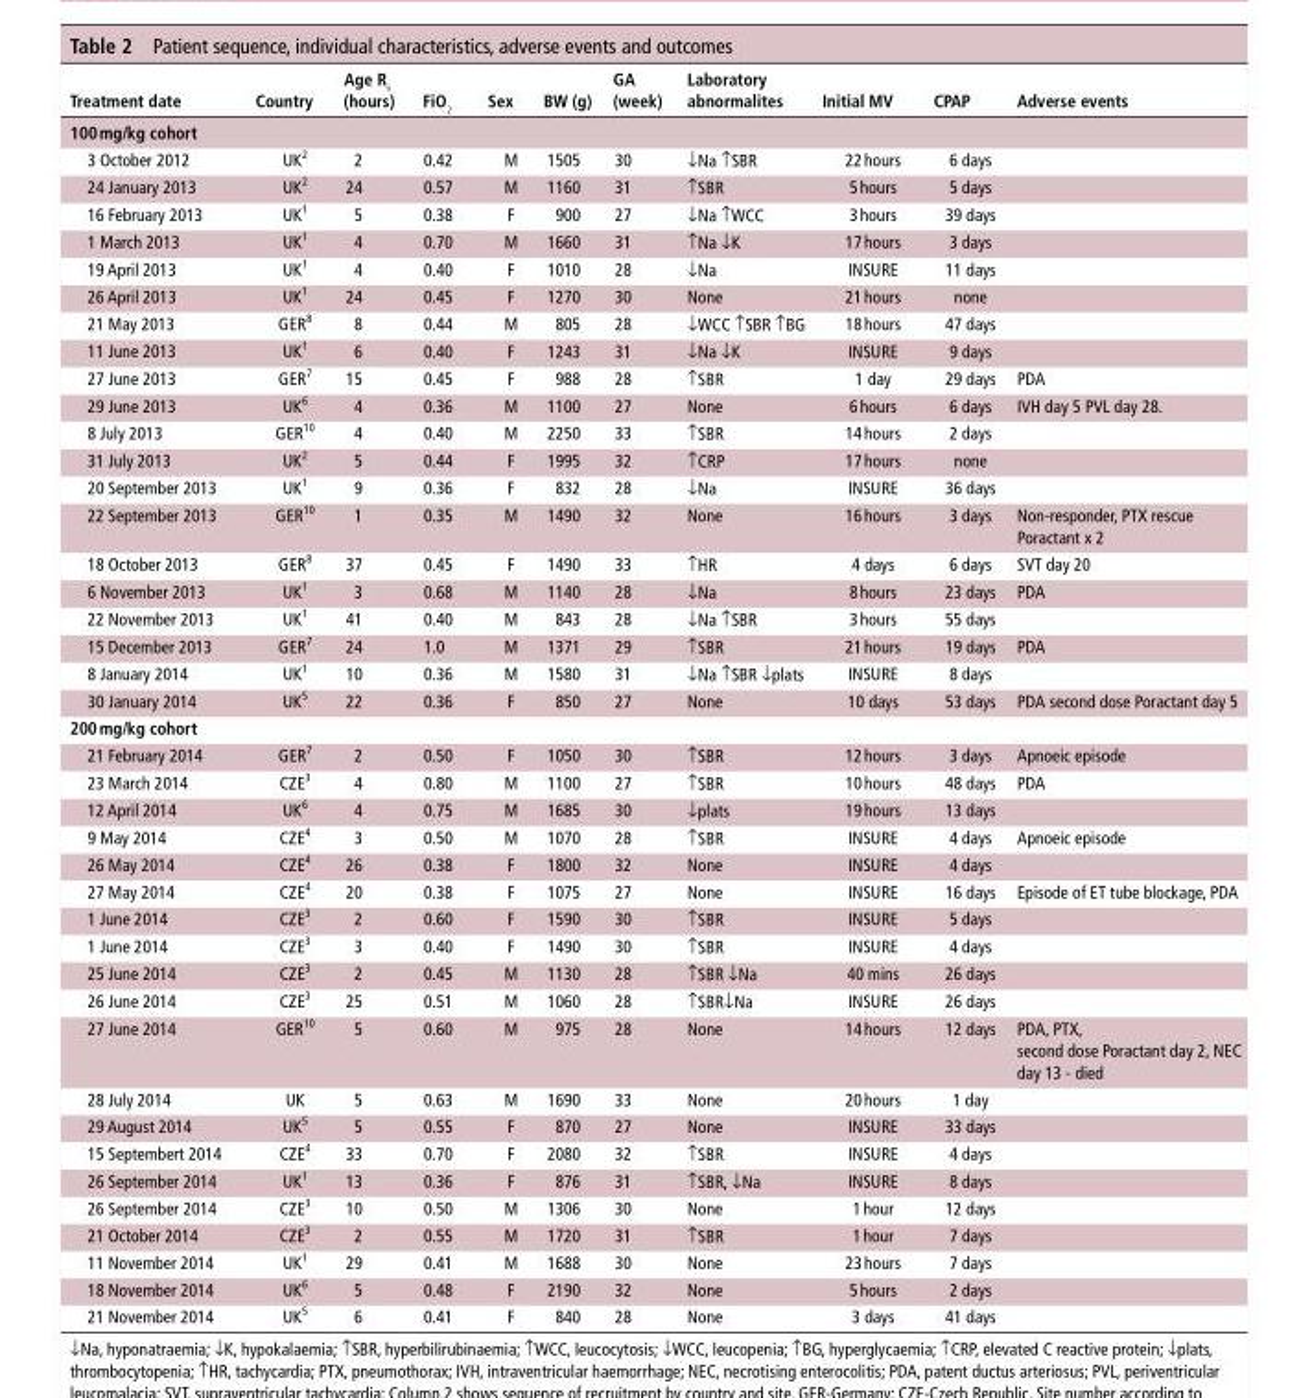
<table><thead><tr><td>Treatment date</td><td>Country</td><td>Age R<sub>x</sub> (hours)</td><td>FiO<sub>2</sub></td><td>Sex</td><td>BW (g)</td><td>GA (week)</td><td>laboratory abnormalites</td><td>Initial MV</td><td>CPAP</td><td>Adverse events</td></tr></thead><tbody><tr><td colspan="11">100 mg/kg cohort</td></tr><tr><td>3 October 2012</td><td>UK<sup>2</sup></td><td>2</td><td>0.42</td><td>M</td><td>1505</td><td>30</td><td>↓Na ↑SBR</td><td>22 hours</td><td>6 days</td><td></td></tr><tr><td>24 January 2013</td><td>UK<sup>2</sup></td><td>24</td><td>0.57</td><td>M</td><td>1160</td><td>31</td><td>↑SBR</td><td>5 hours</td><td>5 days</td><td></td></tr><tr><td>16 February 2013</td><td>UK<sup>1</sup></td><td>5</td><td>0.38</td><td>F</td><td>900</td><td>27</td><td>↓Na ↑WCC</td><td>3 hours</td><td>39 days</td><td></td></tr><tr><td>1 March 2013</td><td>UK<sup>1</sup></td><td>4</td><td>0.70</td><td>M</td><td>1660</td><td>31</td><td>↑Na ↓K</td><td>17 hours</td><td>3 days</td><td></td></tr><tr><td>19 April 2013</td><td>UK<sup>1</sup></td><td>4</td><td>0.40</td><td>F</td><td>1010</td><td>28</td><td>↓Na</td><td>INSURE</td><td>11 days</td><td></td></tr><tr><td>26 April 2013</td><td>UK<sup>1</sup></td><td>24</td><td>0.45</td><td>F</td><td>1270</td><td>30</td><td>None</td><td>21 hours</td><td>none</td><td></td></tr><tr><td>21 May 2013</td><td>GER<sup>8</sup></td><td>8</td><td>0.44</td><td>M</td><td>805</td><td>28</td><td>↓WCC ↑SBR ↑BG</td><td>18 hours</td><td>47 days</td><td></td></tr><tr><td>11 June 2013</td><td>UK<sup>1</sup></td><td>6</td><td>0.40</td><td>F</td><td>1243</td><td>31</td><td>↓Na ↓K</td><td>INSURE</td><td>9 days</td><td></td></tr><tr><td>27 June 2013</td><td>GER<sup>7</sup></td><td>15</td><td>0.45</td><td>F</td><td>988</td><td>28</td><td>↑SBR</td><td>1 day</td><td>29 days</td><td>PDA</td></tr><tr><td>29 June 2013</td><td>UK<sup>6</sup></td><td>4</td><td>0.36</td><td>M</td><td>1100</td><td>27</td><td>None</td><td>6 hours</td><td>6 days</td><td>IVH day 5 PVL day 28.</td></tr><tr><td>8 July 2013</td><td>GER<sup>10</sup></td><td>4</td><td>0.40</td><td>M</td><td>2250</td><td>33</td><td>↑SBR</td><td>14 hours</td><td>2 days</td><td></td></tr><tr><td>31 July 2013</td><td>UK<sup>2</sup></td><td>5</td><td>0.44</td><td>F</td><td>1995</td><td>32</td><td>↑CRP</td><td>17 hours</td><td>none</td><td></td></tr><tr><td>20 September 2013</td><td>UK<sup>1</sup></td><td>9</td><td>0.36</td><td>F</td><td>832</td><td>28</td><td>↓Na</td><td>INSURE</td><td>36 days</td><td></td></tr><tr><td>22 September 2013</td><td>GER<sup>10</sup></td><td>1</td><td>0.35</td><td>M</td><td>1490</td><td>32</td><td>None</td><td>16 hours</td><td>3 days</td><td>Non-responder, PTX rescue Poractant x 2</td></tr><tr><td>18 October 2013</td><td>GER<sup>8</sup></td><td>37</td><td>0.45</td><td>F</td><td>1490</td><td>33</td><td>↑HR</td><td>4 days</td><td>6 days</td><td>SVT day 20</td></tr><tr><td>6 November 2013</td><td>UK<sup>1</sup></td><td>3</td><td>0.68</td><td>M</td><td>1140</td><td>28</td><td>↓Na</td><td>8 hours</td><td>23 days</td><td>PDA</td></tr><tr><td>22 November 2013</td><td>UK<sup>1</sup></td><td>41</td><td>0.40</td><td>M</td><td>843</td><td>28</td><td>↓Na ↑SBR</td><td>3 hours</td><td>55 days</td><td></td></tr><tr><td>15 December 2013</td><td>GER<sup>7</sup></td><td>24</td><td>1.0</td><td>M</td><td>1371</td><td>29</td><td>↑SBR</td><td>21 hours</td><td>19 days</td><td>PDA</td></tr><tr><td>8 January 2014</td><td>UK<sup>1</sup></td><td>10</td><td>0.36</td><td>M</td><td>1580</td><td>31</td><td>↓Na ↑SBR ↓plats</td><td>INSURE</td><td>8 days</td><td></td></tr><tr><td>30 January 2014</td><td>UK<sup>5</sup></td><td>22</td><td>0.36</td><td>F</td><td>850</td><td>27</td><td>None</td><td>10 days</td><td>53 days</td><td>PDA second dose Poractant day 5</td></tr><tr><td colspan="11">200 mg/kg cohort</td></tr><tr><td>21 February 2014</td><td>GER<sup>7</sup></td><td>2</td><td>0.50</td><td>F</td><td>1050</td><td>30</td><td>↑SBR</td><td>12 hours</td><td>3 days</td><td>Apnoeic episode</td></tr><tr><td>23 March 2014</td><td>CZE<sup>3</sup></td><td>4</td><td>0.80</td><td>M</td><td>1100</td><td>27</td><td>↑SBR</td><td>10 hours</td><td>48 days</td><td>PDA</td></tr><tr><td>12 April 2014</td><td>UK<sup>6</sup></td><td>4</td><td>0.75</td><td>M</td><td>1685</td><td>30</td><td>↓plats</td><td>19 hours</td><td>13 days</td><td></td></tr><tr><td>9 May 2014</td><td>CZE<sup>4</sup></td><td>3</td><td>0.50</td><td>M</td><td>1070</td><td>28</td><td>↑SBR</td><td>INSURE</td><td>4 days</td><td>Apnoeic episode</td></tr><tr><td>26 May 2014</td><td>CZE<sup>4</sup></td><td>26</td><td>0.38</td><td>F</td><td>1800</td><td>32</td><td>None</td><td>INSURE</td><td>4 days</td><td></td></tr><tr><td>27 May 2014</td><td>CZE<sup>4</sup></td><td>20</td><td>0.38</td><td>F</td><td>1075</td><td>27</td><td>None</td><td>INSURE</td><td>16 days</td><td>Episode of ET tube blockage, PDA</td></tr><tr><td>1 June 2014</td><td>CZE<sup>3</sup></td><td>2</td><td>0.60</td><td>F</td><td>1590</td><td>30</td><td>↑SBR</td><td>INSURE</td><td>5 days</td><td></td></tr><tr><td>1 June 2014</td><td>CZE<sup>3</sup></td><td>3</td><td>0.40</td><td>F</td><td>1490</td><td>30</td><td>↑SBR</td><td>INSURE</td><td>4 days</td><td></td></tr><tr><td>25 June 2014</td><td>CZE<sup>3</sup></td><td>2</td><td>0.45</td><td>M</td><td>1130</td><td>28</td><td>↑SBR ↓Na</td><td>40 mins</td><td>26 days</td><td></td></tr><tr><td>26 June 2014</td><td>CZE<sup>3</sup></td><td>25</td><td>0.51</td><td>M</td><td>1060</td><td>28</td><td>↑SBR↓Na</td><td>INSURE</td><td>26 days</td><td></td></tr><tr><td>27 June 2014</td><td>GER<sup>10</sup></td><td>5</td><td>0.60</td><td>M</td><td>975</td><td>28</td><td>None</td><td>14 hours</td><td>12 days</td><td>PDA, PTX, second dose Poractant day 2, NEC day 13 - died</td></tr><tr><td>28 July 2014</td><td>UK</td><td>5</td><td>0.63</td><td>M</td><td>1690</td><td>33</td><td>None</td><td>20 hours</td><td>1 day</td><td></td></tr><tr><td>29 August 2014</td><td>UK<sup>5</sup></td><td>5</td><td>0.55</td><td>F</td><td>870</td><td>27</td><td>None</td><td>INSURE</td><td>33 days</td><td></td></tr><tr><td>15 Septembert 2014</td><td>CZE<sup>4</sup></td><td>33</td><td>0.70</td><td>F</td><td>2080</td><td>32</td><td>↑SBR</td><td>INSURE</td><td>4 days</td><td></td></tr><tr><td>26 September 2014</td><td>UK<sup>1</sup></td><td>13</td><td>0.36</td><td>F</td><td>876</td><td>31</td><td>↑SBR, ↓Na</td><td>INSURE</td><td>8 days</td><td></td></tr><tr><td>26 September 2014</td><td>CZE<sup>3</sup></td><td>10</td><td>0.50</td><td>M</td><td>1306</td><td>30</td><td>None</td><td>1 hour</td><td>12 days</td><td></td></tr><tr><td>21 October 2014</td><td>CZE<sup>3</sup></td><td>2</td><td>0.55</td><td>M</td><td>1720</td><td>31</td><td>↑SBR</td><td>1 hour</td><td>7 days</td><td></td></tr><tr><td>11 November 2014</td><td>UK<sup>1</sup></td><td>29</td><td>0.41</td><td>M</td><td>1688</td><td>30</td><td>None</td><td>23 hours</td><td>7 days</td><td></td></tr><tr><td>18 November 2014</td><td>UK<sup>6</sup></td><td>5</td><td>0.48</td><td>F</td><td>2190</td><td>32</td><td>None</td><td>5 hours</td><td>2 days</td><td></td></tr><tr><td>21 November 2014</td><td>UK<sup>5</sup></td><td>6</td><td>0.41</td><td>F</td><td>840</td><td>28</td><td>None</td><td>3 days</td><td>41 days</td><td></td></tr></tbody></table>